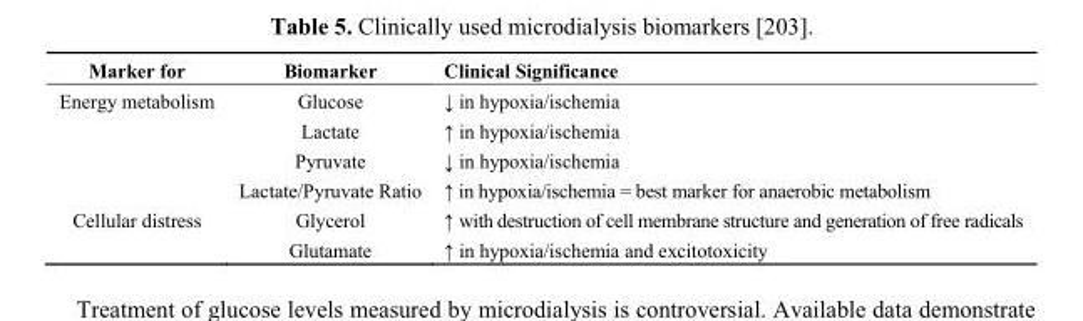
<table><thead><tr><td>Marker for</td><td>Biomarker</td><td>Clinical Significance</td></tr></thead><tbody><tr><td rowspan="4">Energy metabolism</td><td>Glucose</td><td>↓ in hypoxia/ischemia</td></tr><tr><td>Lactate</td><td>↑ in hypoxia/ischemia</td></tr><tr><td>Pyruvate</td><td>↓ in hypoxia/ischemia</td></tr><tr><td>Lactate/Pyruvate Ratio</td><td>↑ in hypoxia/ischemia = best marker for anaerobic metabolism</td></tr><tr><td rowspan="2">Cellular distress</td><td>Glycerol</td><td>↑ with destruction of cell membrane structure and generation of free radicals</td></tr><tr><td>Glutamate</td><td>↑ in hypoxia/ischemia and excitotoxicity</td></tr></tbody></table>